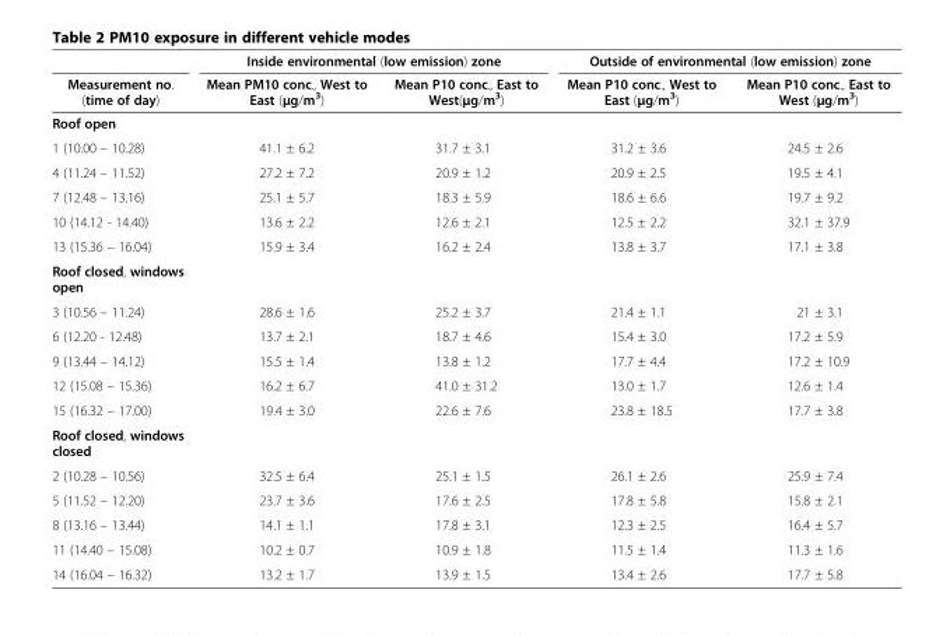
<table><thead><tr><td rowspan="2">Measurement no. (time of day)</td><td colspan="2">Inside environmental (low emission) zone</td><td colspan="2">Outside of environmental (low emission) zone</td></tr><tr><td>Mean PM10 conc., West to East (μg/m<sup>3</sup>)</td><td>Mean P10 conc., East to West(μg/m<sup>3</sup>)</td><td>Mean P10 conc., West to East (μg/m<sup>3</sup>)</td><td>Mean P10 conc., East to West (μg/m<sup>3</sup>)</td></tr></thead><tbody><tr><td colspan="5">Roof open</td></tr><tr><td>1 (10.00 – 10.28)</td><td>41.1 ± 6.2</td><td>31.7 ± 3.1</td><td>31.2 ± 3.6</td><td>24.5 ± 2.6</td></tr><tr><td>4 (11.24 – 11.52)</td><td>27.2 ± 7.2</td><td>20.9 ± 1.2</td><td>20.9 ± 2.5</td><td>19.5 ± 4.1</td></tr><tr><td>7 (12.48 – 13.16)</td><td>25.1 ± 5.7</td><td>18.3 ± 5.9</td><td>18.6 ± 6.6</td><td>19.7 ± 9.2</td></tr><tr><td>10 (14.12 - 14.40)</td><td>13.6 ± 2.2</td><td>12.6 ± 2.1</td><td>12.5 ± 2.2</td><td>32.1 ± 37.9</td></tr><tr><td>13 (15.36 – 16.04)</td><td>15.9 ± 3.4</td><td>16.2 ± 2.4</td><td>13.8 ± 3.7</td><td>17.1 ± 3.8</td></tr><tr><td colspan="5">Roof closed, windows open</td></tr><tr><td>3 (10.56 – 11.24)</td><td>28.6 ± 1.6</td><td>25.2 ± 3.7</td><td>21.4 ± 1.1</td><td>21 ± 3.1</td></tr><tr><td>6 (12.20 - 12.48)</td><td>13.7 ± 2.1</td><td>18.7 ± 4.6</td><td>15.4 ± 3.0</td><td>17.2 ± 5.9</td></tr><tr><td>9 (13.44 – 14.12)</td><td>15.5 ± 1.4</td><td>13.8 ± 1.2</td><td>17.7 ± 4.4</td><td>17.2 ± 10.9</td></tr><tr><td>12 (15.08 – 15.36)</td><td>16.2 ± 6.7</td><td>41.0 ± 31.2</td><td>13.0 ± 1.7</td><td>12.6 ± 1.4</td></tr><tr><td>15 (16.32 – 17.00)</td><td>19.4 ± 3.0</td><td>22.6 ± 7.6</td><td>23.8 ± 18.5</td><td>17.7 ± 3.8</td></tr><tr><td colspan="5">Roof closed, windows closed</td></tr><tr><td>2 (10.28 – 10.56)</td><td>32.5 ± 6.4</td><td>25.1 ± 1.5</td><td>26.1 ± 2.6</td><td>25.9 ± 7.4</td></tr><tr><td>5 (11.52 – 12.20)</td><td>23.7 ± 3.6</td><td>17.6 ± 2.5</td><td>17.8 ± 5.8</td><td>15.8 ± 2.1</td></tr><tr><td>8 (13.16 – 13.44)</td><td>14.1 ± 1.1</td><td>17.8 ± 3.1</td><td>12.3 ± 2.5</td><td>16.4 ± 5.7</td></tr><tr><td>11 (14.40 – 15.08)</td><td>10.2 ± 0.7</td><td>10.9 ± 1.8</td><td>11.5 ± 1.4</td><td>11.3 ± 1.6</td></tr><tr><td>14 (16.04 – 16.32)</td><td>13.2 ± 1.7</td><td>13.9 ± 1.5</td><td>13.4 ± 2.6</td><td>17.7 ± 5.8</td></tr></tbody></table>